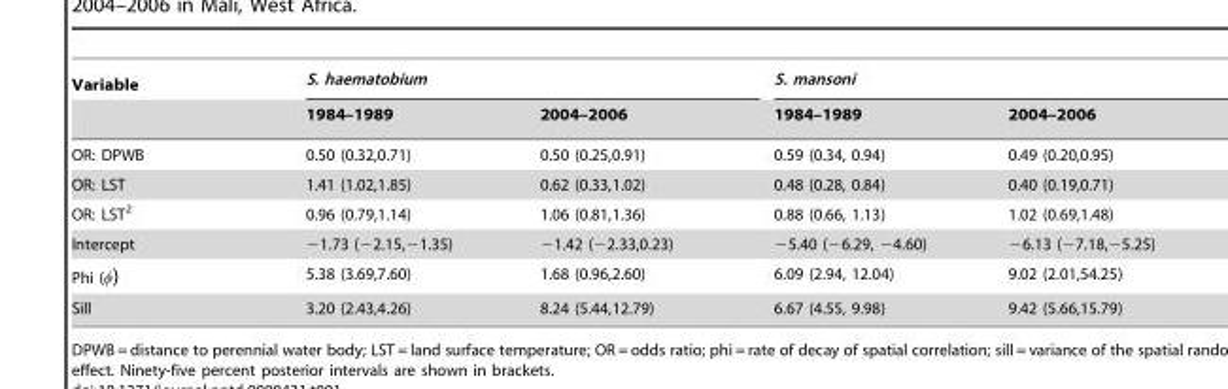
<table><thead><tr><td rowspan="2">Variable</td><td colspan="2">S. haematobium</td><td colspan="2">S. mansoni</td></tr><tr><td>1984–1989</td><td>2004–2006</td><td>1984–1989</td><td>2004–2006</td></tr></thead><tbody><tr><td>OR: DPWB</td><td>0.50 (0.32,0.71)</td><td>0.50 (0.25,0.91)</td><td>0.59 (0.34, 0.94)</td><td>0.49 (0.20,0.95)</td></tr><tr><td>OR: LST</td><td>1.41 (1.02,1.85)</td><td>0.62 (0.33,1.02)</td><td>0.48 (0.28, 0.84)</td><td>0.40 (0.19,0.71)</td></tr><tr><td>OR: LST<sup>2</sup></td><td>0.96 (0.79,1.14)</td><td>1.06 (0.81,1.36)</td><td>0.88 (0.66, 1.13)</td><td>1.02 (0.69,1.48)</td></tr><tr><td>Intercept</td><td>−1.73 (−2.15,−1.35)</td><td>−1.42 (−2.33,0.23)</td><td>−5.40 (−6.29, −4.60)</td><td>−6.13 (−7.18,−5.25)</td></tr><tr><td>Phi (w)</td><td>5.38 (3.69,7.60)</td><td>1.68 (0.96,2.60)</td><td>6.09 (2.94, 12.04)</td><td>9.02 (2.01,54.25)</td></tr><tr><td>Sill</td><td>3.20 (2.43,4.26)</td><td>8.24 (5.44,12.79)</td><td>6.67 (4.55, 9.98)</td><td>9.42 (5.66,15.79)</td></tr></tbody></table>